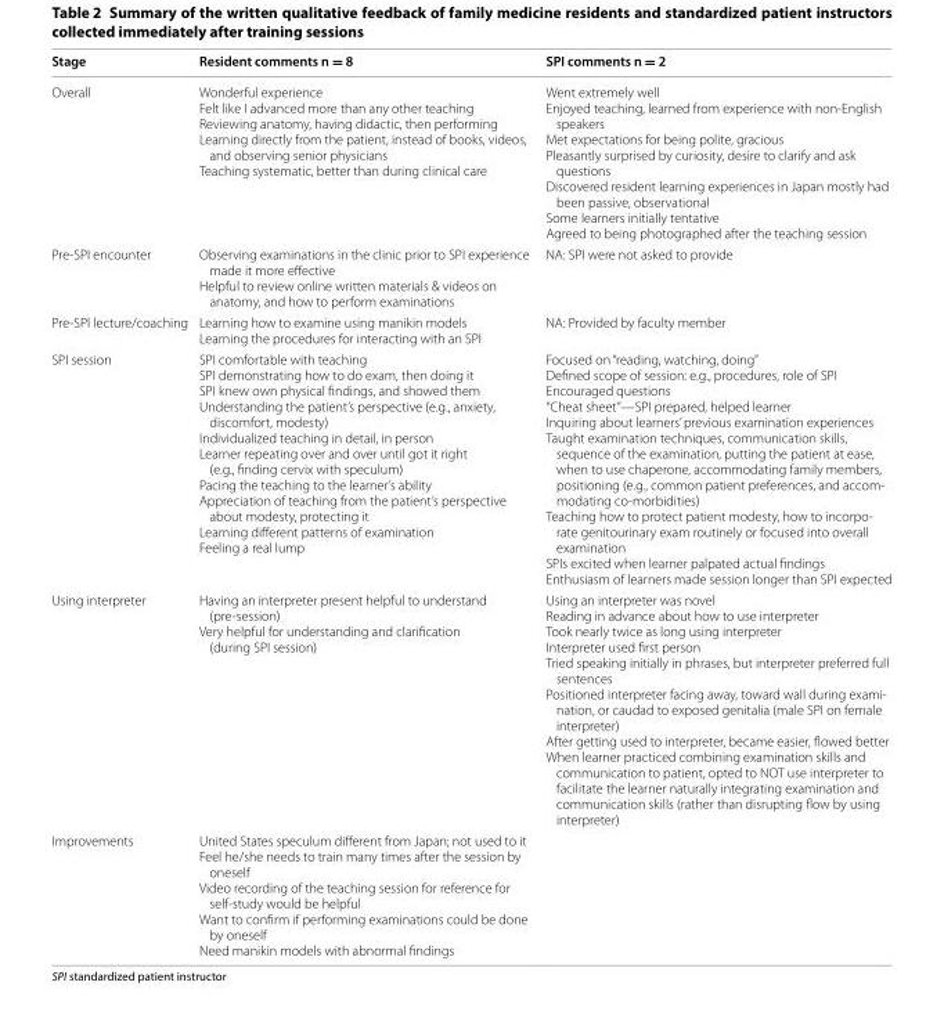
<table><thead><tr><td>Stage</td><td>Resident comments n = 8</td><td>SPI comments n = 2</td></tr></thead><tbody><tr><td>Overall</td><td>Wonderful experience Felt like I advanced more than any other teaching Reviewing anatomy, having didactic, then performing Learning directly from the patient, instead of books, videos, and observing senior physicians Teaching systematic, better than during clinical care</td><td>Went extremely well Enjoyed teaching, learned from experience with non-English speakers Met expectations for being polite, gracious Pleasantly surprised by curiosity, desire to clarify and ask questions Discovered resident learning experiences in Japan mostly had been passive, observational Some learners initially tentative Agreed to being photographed after the teaching session</td></tr><tr><td>Pre-SPI encounter</td><td>Observing examinations in the clinic prior to SPI experience made it more effective Helpful to review online written materials &amp; videos on anatomy, and how to perform examinations</td><td>NA: SPI were not asked to provide</td></tr><tr><td>Pre-SPI lecture/coaching</td><td>Learning how to examine using manikin models Learning the procedures for interacting with an SPI</td><td>NA: Provided by faculty member</td></tr><tr><td>SPI session</td><td>SPI comfortable with teaching SPI demonstrating how to do exam, then doing it SPI knew own physical findings, and showed them Understanding the patient’s perspective (e.g., anxiety, discomfort, modesty) Individualized teaching in detail, in person Learner repeating over and over until got it right (e.g., finding cervix with speculum) Pacing the teaching to the learner’s ability Appreciation of teaching from the patient’s perspective about modesty, protecting it Learning different patterns of examination Feeling a real lump</td><td>Focused on “reading, watching, doing” Defined scope of session: e.g., procedures, role of SPI Encouraged questions “Cheat sheet”—SPI prepared, helped learner Inquiring about learners’ previous examination experiences Taught examination techniques, communication skills, sequence of the examination, putting the patient at ease, when to use chaperone, accommodating family members, positioning (e.g., common patient preferences, and accom- modating co-morbidities) Teaching how to protect patient modesty, how to incorpo- rate genitourinary exam routinely or focused into overall examination SPIs excited when learner palpated actual findings Enthusiasm of learners made session longer than SPI expected</td></tr><tr><td>Using interpreter</td><td>Having an interpreter present helpful to understand (pre-session) Very helpful for understanding and clarification (during SPI session)</td><td>Using an interpreter was novel Reading in advance about how to use interpreter Took nearly twice as long using interpreter Interpreter used first person Tried speaking initially in phrases, but interpreter preferred full sentences Positioned interpreter facing away, toward wall during exami- nation, or caudad to exposed genitalia (male SPI on female interpreter) After getting used to interpreter, became easier, flowed better When learner practiced combining examination skills and communication to patient, opted to NOT use interpreter to facilitate the learner naturally integrating examination and communication skills (rather than disrupting flow by using interpreter)</td></tr><tr><td>Improvements</td><td>United States speculum different from Japan; not used to it Feel he/she needs to train many times after the session by oneself Video recording of the teaching session for reference for self-study would be helpful Want to confirm if performing examinations could be done by oneself Need manikin models with abnormal findings</td><td></td></tr></tbody></table>